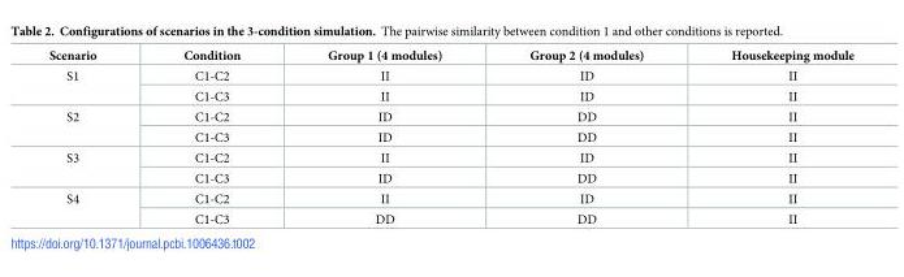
<table><thead><tr><td>Scenario</td><td>Condition</td><td>Group 1 (4 modules)</td><td>Group 2 (4 modules)</td><td>Housekeeping module</td></tr></thead><tbody><tr><td rowspan="2">S1</td><td>C1-C2</td><td>II</td><td>ID</td><td>II</td></tr><tr><td>C1-C3</td><td>II</td><td>ID</td><td>II</td></tr><tr><td rowspan="2">S2</td><td>C1-C2</td><td>ID</td><td>DD</td><td>II</td></tr><tr><td>C1-C3</td><td>ID</td><td>DD</td><td>II</td></tr><tr><td rowspan="2">S3</td><td>C1-C2</td><td>II</td><td>ID</td><td>II</td></tr><tr><td>C1-C3</td><td>ID</td><td>DD</td><td>II</td></tr><tr><td rowspan="2">S4</td><td>C1-C2</td><td>II</td><td>ID</td><td>II</td></tr><tr><td>C1-C3</td><td>DD</td><td>DD</td><td>II</td></tr></tbody></table>